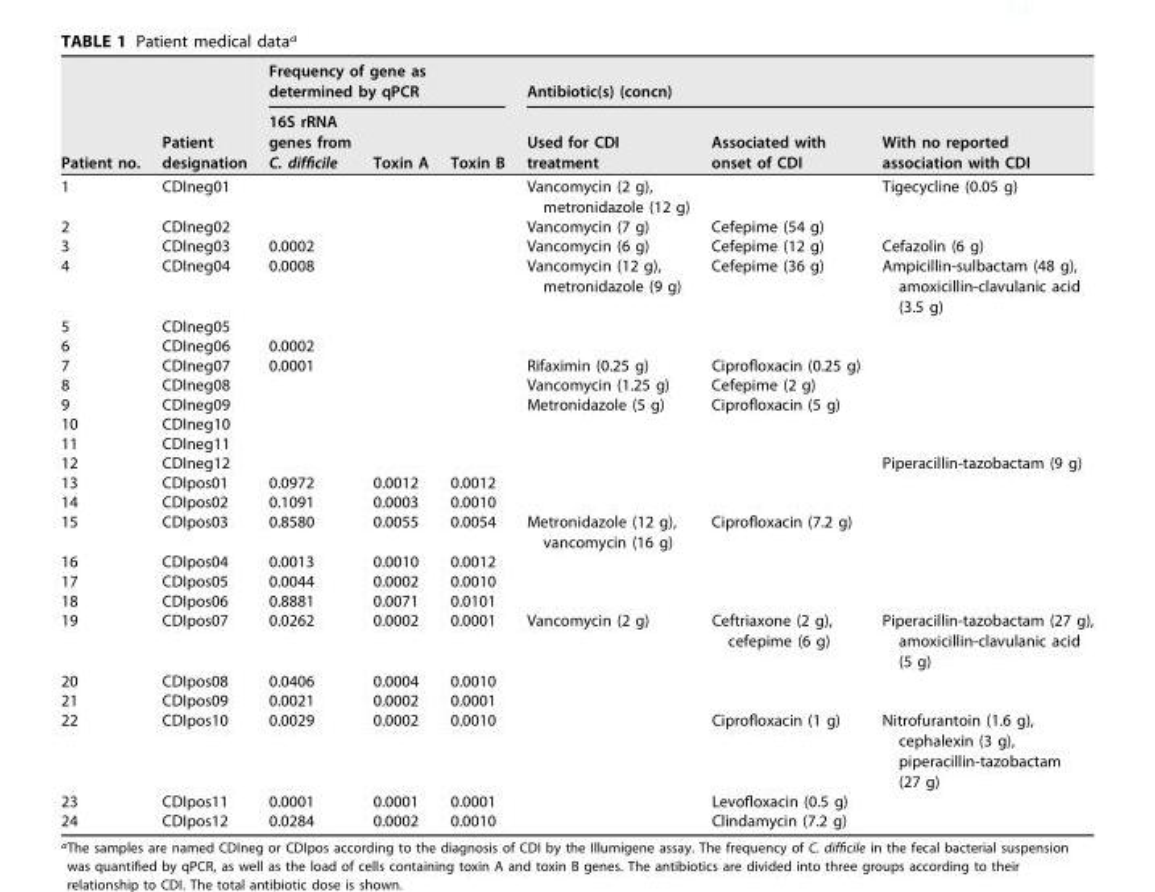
<table><thead><tr><td rowspan="2">Patient no.</td><td rowspan="2">Patient designation</td><td colspan="3">Frequency of gene as determined by qPCR</td><td colspan="3">Antibiotic(s) (concn)</td></tr><tr><td>16S rRNA genes from C. difficile</td><td>Toxin A</td><td>Toxin B</td><td>Used for CDI treatment</td><td>Associated with onset of CDI</td><td>With no reported association with CDI</td></tr></thead><tbody><tr><td>1</td><td>CDIneg01</td><td></td><td></td><td></td><td>Vancomycin (2 g), metronidazole (12 g)</td><td></td><td>Tigecycline (0.05 g)</td></tr><tr><td>2</td><td>CDIneg02</td><td></td><td></td><td></td><td>Vancomycin (7 g)</td><td>Cefepime (54 g)</td><td></td></tr><tr><td>3</td><td>CDIneg03</td><td>0.0002</td><td></td><td></td><td>Vancomycin (6 g)</td><td>Cefepime (12 g)</td><td>Cefazolin (6 g)</td></tr><tr><td>4</td><td>CDIneg04</td><td>0.0008</td><td></td><td></td><td>Vancomycin (12 g), metronidazole (9 g)</td><td>Cefepime (36 g)</td><td>Ampicillin-sulbactam (48 g), amoxicillin-clavulanic acid (3.5 g)</td></tr><tr><td>5</td><td>CDIneg05</td><td></td><td></td><td></td><td></td><td></td><td></td></tr><tr><td>6</td><td>CDIneg06</td><td>0.0002</td><td></td><td></td><td></td><td></td><td></td></tr><tr><td>7</td><td>CDIneg07</td><td>0.0001</td><td></td><td></td><td>Rifaximin (0.25 g)</td><td>Ciprofloxacin (0.25 g)</td><td></td></tr><tr><td>8</td><td>CDIneg08</td><td></td><td></td><td></td><td>Vancomycin (1.25 g)</td><td>Cefepime (2 g)</td><td></td></tr><tr><td>9</td><td>CDIneg09</td><td></td><td></td><td></td><td>Metronidazole (5 g)</td><td>Ciprofloxacin (5 g)</td><td></td></tr><tr><td>10</td><td>CDIneg10</td><td></td><td></td><td></td><td></td><td></td><td></td></tr><tr><td>11</td><td>CDIneg11</td><td></td><td></td><td></td><td></td><td></td><td></td></tr><tr><td>12</td><td>CDIneg12</td><td></td><td></td><td></td><td></td><td></td><td>Piperacillin-tazobactam (9 g)</td></tr><tr><td>13</td><td>CDIpos01</td><td>0.0972</td><td>0.0012</td><td>0.0012</td><td></td><td></td><td></td></tr><tr><td>14</td><td>CDIpos02</td><td>0.1091</td><td>0.0003</td><td>0.0010</td><td></td><td></td><td></td></tr><tr><td>15</td><td>CDIpos03</td><td>0.8580</td><td>0.0055</td><td>0.0054</td><td>Metronidazole (12 g), vancomycin (16 g)</td><td>Ciprofloxacin (7.2 g)</td><td></td></tr><tr><td>16</td><td>CDIpos04</td><td>0.0013</td><td>0.0010</td><td>0.0012</td><td></td><td></td><td></td></tr><tr><td>17</td><td>CDIpos05</td><td>0.0044</td><td>0.0002</td><td>0.0010</td><td></td><td></td><td></td></tr><tr><td>18</td><td>CDIpos06</td><td>0.8881</td><td>0.0071</td><td>0.0101</td><td></td><td></td><td></td></tr><tr><td>19</td><td>CDIpos07</td><td>0.0262</td><td>0.0002</td><td>0.0001</td><td>Vancomycin (2 g)</td><td>Ceftriaxone (2 g), cefepime (6 g)</td><td>Piperacillin-tazobactam (27 g), amoxicillin-clavulanic acid (5 g)</td></tr><tr><td>20</td><td>CDIpos08</td><td>0.0406</td><td>0.0004</td><td>0.0010</td><td></td><td></td><td></td></tr><tr><td>21</td><td>CDIpos09</td><td>0.0021</td><td>0.0002</td><td>0.0001</td><td></td><td></td><td></td></tr><tr><td>22</td><td>CDIpos10</td><td>0.0029</td><td>0.0002</td><td>0.0010</td><td></td><td>Ciprofloxacin (1 g)</td><td>Nitrofurantoin (1.6 g), cephalexin (3 g), piperacillin-tazobactam (27 g)</td></tr><tr><td>23</td><td>CDIpos11</td><td>0.0001</td><td>0.0001</td><td>0.0001</td><td></td><td>Levofloxacin (0.5 g)</td><td></td></tr><tr><td>24</td><td>CDIpos12</td><td>0.0284</td><td>0.0002</td><td>0.0010</td><td></td><td>Clindamycin (7.2 g)</td><td></td></tr></tbody></table>